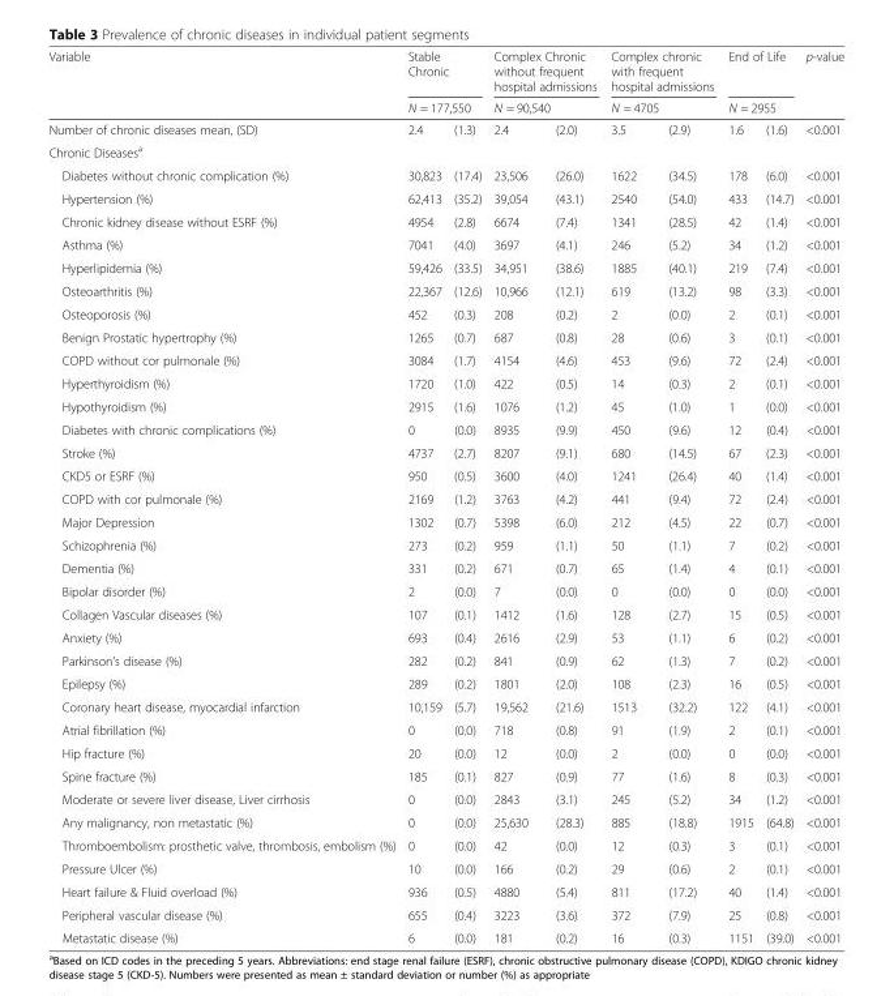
<table><thead><tr><td rowspan="3">Variable Number of chronic diseases mean, (SD)</td><td rowspan="2" colspan="2">Stable Chronic N = 177,550</td><td rowspan="2" colspan="2">Complex Chronic without frequent hospital admissions N = 90,540</td><td rowspan="2" colspan="2">Complex chronic with frequent hospital admissions N = 4705</td><td rowspan="2" colspan="2">End of Life N = 2955</td><td rowspan="3">p-value &lt;0.001</td></tr><tr></tr><tr><td>2.4</td><td>(1.3)</td><td>2.4</td><td>(2.0)</td><td>3.5</td><td>(2.9)</td><td>1.6</td><td>(1.6)</td></tr></thead><tbody><tr><td colspan="10">Chronic Diseases<sup>a</sup></td></tr><tr><td>Diabetes without chronic complication (%)</td><td>30,823</td><td>(17.4)</td><td>23,506</td><td>(26.0)</td><td>1622</td><td>(34.5)</td><td>178</td><td>(6.0)</td><td>&lt;0.001</td></tr><tr><td>Hypertension (%)</td><td>62,413</td><td>(35.2)</td><td>39,054</td><td>(43.1)</td><td>2540</td><td>(54.0)</td><td>433</td><td>(14.7)</td><td>&lt;0.001</td></tr><tr><td>Chronic kidney disease without ESRF (%)</td><td>4954</td><td>(2.8)</td><td>6674</td><td>(7.4)</td><td>1341</td><td>(28.5)</td><td>42</td><td>(1.4)</td><td>&lt;0.001</td></tr><tr><td>Asthma (%)</td><td>7041</td><td>(4.0)</td><td>3697</td><td>(4.1)</td><td>246</td><td>(5.2)</td><td>34</td><td>(1.2)</td><td>&lt;0.001</td></tr><tr><td>Hyperlipidemia (%)</td><td>59,426</td><td>(33.5)</td><td>34,951</td><td>(38.6)</td><td>1885</td><td>(40.1)</td><td>219</td><td>(7.4)</td><td>&lt;0.001</td></tr><tr><td>Osteoarthritis (%)</td><td>22,367</td><td>(12.6)</td><td>10,966</td><td>(12.1)</td><td>619</td><td>(13.2)</td><td>98</td><td>(3.3)</td><td>&lt;0.001</td></tr><tr><td>Osteoporosis (%)</td><td>452</td><td>(0.3)</td><td>208</td><td>(0.2)</td><td>2</td><td>(0.0)</td><td>2</td><td>(0.1)</td><td>&lt;0.001</td></tr><tr><td>Benign Prostatic hypertrophy (%)</td><td>1265</td><td>(0.7)</td><td>687</td><td>(0.8)</td><td>28</td><td>(0.6)</td><td>3</td><td>(0.1)</td><td>&lt;0.001</td></tr><tr><td>COPD without cor pulmonale (%)</td><td>3084</td><td>(1.7)</td><td>4154</td><td>(4.6)</td><td>453</td><td>(9.6)</td><td>72</td><td>(2.4)</td><td>&lt;0.001</td></tr><tr><td>Hyperthyroidism (%)</td><td>1720</td><td>(1.0)</td><td>422</td><td>(0.5)</td><td>14</td><td>(0.3)</td><td>2</td><td>(0.1)</td><td>&lt;0.001</td></tr><tr><td>Hypothyroidism (%)</td><td>2915</td><td>(1.6)</td><td>1076</td><td>(1.2)</td><td>45</td><td>(1.0)</td><td>1</td><td>(0.0)</td><td>&lt;0.001</td></tr><tr><td>Diabetes with chronic complications (%)</td><td>0</td><td>(0.0)</td><td>8935</td><td>(9.9)</td><td>450</td><td>(9.6)</td><td>12</td><td>(0.4)</td><td>&lt;0.001</td></tr><tr><td>Stroke (%)</td><td>4737</td><td>(2.7)</td><td>8207</td><td>(9.1)</td><td>680</td><td>(14.5)</td><td>67</td><td>(2.3)</td><td>&lt;0.001</td></tr><tr><td>CKD5 or ESRF (%)</td><td>950</td><td>(0.5)</td><td>3600</td><td>(4.0)</td><td>1241</td><td>(26.4)</td><td>40</td><td>(1.4)</td><td>&lt;0.001</td></tr><tr><td>COPD with cor pulmonale (%)</td><td>2169</td><td>(1.2)</td><td>3763</td><td>(4.2)</td><td>441</td><td>(9.4)</td><td>72</td><td>(2.4)</td><td>&lt;0.001</td></tr><tr><td>Major Depression</td><td>1302</td><td>(0.7)</td><td>5398</td><td>(6.0)</td><td>212</td><td>(4.5)</td><td>22</td><td>(0.7)</td><td>&lt;0.001</td></tr><tr><td>Schizophrenia (%)</td><td>273</td><td>(0.2)</td><td>959</td><td>(1.1)</td><td>50</td><td>(1.1)</td><td>7</td><td>(0.2)</td><td>&lt;0.001</td></tr><tr><td>Dementia (%)</td><td>331</td><td>(0.2)</td><td>671</td><td>(0.7)</td><td>65</td><td>(1.4)</td><td>4</td><td>(0.1)</td><td>&lt;0.001</td></tr><tr><td>Bipolar disorder (%)</td><td>2</td><td>(0.0)</td><td>7</td><td>(0.0)</td><td>0</td><td>(0.0)</td><td>0</td><td>(0.0)</td><td>&lt;0.001</td></tr><tr><td>Collagen Vascular diseases (%)</td><td>107</td><td>(0.1)</td><td>1412</td><td>(1.6)</td><td>128</td><td>(2.7)</td><td>15</td><td>(0.5)</td><td>&lt;0.001</td></tr><tr><td>Anxiety (%)</td><td>693</td><td>(0.4)</td><td>2616</td><td>(2.9)</td><td>53</td><td>(1.1)</td><td>6</td><td>(0.2)</td><td>&lt;0.001</td></tr><tr><td>Parkinson’s disease (%)</td><td>282</td><td>(0.2)</td><td>841</td><td>(0.9)</td><td>62</td><td>(1.3)</td><td>7</td><td>(0.2)</td><td>&lt;0.001</td></tr><tr><td>Epilepsy (%)</td><td>289</td><td>(0.2)</td><td>1801</td><td>(2.0)</td><td>108</td><td>(2.3)</td><td>16</td><td>(0.5)</td><td>&lt;0.001</td></tr><tr><td>Coronary heart disease, myocardial infarction</td><td>10,159</td><td>(5.7)</td><td>19,562</td><td>(21.6)</td><td>1513</td><td>(32.2)</td><td>122</td><td>(4.1)</td><td>&lt;0.001</td></tr><tr><td>Atrial fibrillation (%)</td><td>0</td><td>(0.0)</td><td>718</td><td>(0.8)</td><td>91</td><td>(1.9)</td><td>2</td><td>(0.1)</td><td>&lt;0.001</td></tr><tr><td>Hip fracture (%)</td><td>20</td><td>(0.0)</td><td>12</td><td>(0.0)</td><td>2</td><td>(0.0)</td><td>0</td><td>(0.0)</td><td>&lt;0.001</td></tr><tr><td>Spine fracture (%)</td><td>185</td><td>(0.1)</td><td>827</td><td>(0.9)</td><td>77</td><td>(1.6)</td><td>8</td><td>(0.3)</td><td>&lt;0.001</td></tr><tr><td>Moderate or severe liver disease, Liver cirrhosis</td><td>0</td><td>(0.0)</td><td>2843</td><td>(3.1)</td><td>245</td><td>(5.2)</td><td>34</td><td>(1.2)</td><td>&lt;0.001</td></tr><tr><td>Any malignancy, non metastatic (%)</td><td>0</td><td>(0.0)</td><td>25,630</td><td>(28.3)</td><td>885</td><td>(18.8)</td><td>1915</td><td>(64.8)</td><td>&lt;0.001</td></tr><tr><td>Thromboembolism: prosthetic valve, thrombosis, embolism (%)</td><td>0</td><td>(0.0)</td><td>42</td><td>(0.0)</td><td>12</td><td>(0.3)</td><td>3</td><td>(0.1)</td><td>&lt;0.001</td></tr><tr><td>Pressure Ulcer (%)</td><td>10</td><td>(0.0)</td><td>166</td><td>(0.2)</td><td>29</td><td>(0.6)</td><td>2</td><td>(0.1)</td><td>&lt;0.001</td></tr><tr><td>Heart failure &amp; Fluid overload (%)</td><td>936</td><td>(0.5)</td><td>4880</td><td>(5.4)</td><td>811</td><td>(17.2)</td><td>40</td><td>(1.4)</td><td>&lt;0.001</td></tr><tr><td>Peripheral vascular disease (%)</td><td>655</td><td>(0.4)</td><td>3223</td><td>(3.6)</td><td>372</td><td>(7.9)</td><td>25</td><td>(0.8)</td><td>&lt;0.001</td></tr><tr><td>Metastatic disease (%)</td><td>6</td><td>(0.0)</td><td>181</td><td>(0.2)</td><td>16</td><td>(0.3)</td><td>1151</td><td>(39.0)</td><td>&lt;0.001</td></tr></tbody></table>